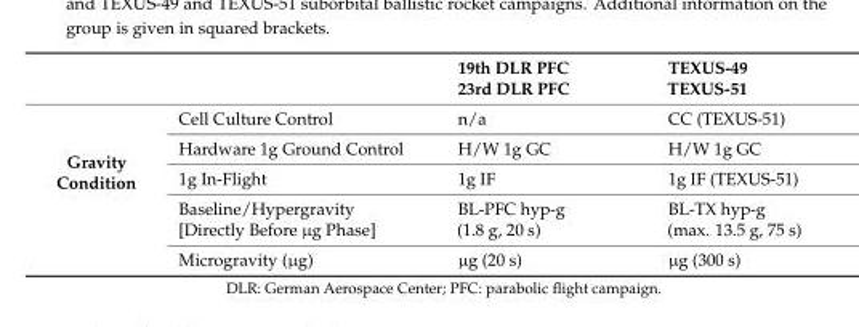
<table><thead><tr><td></td><td></td><td>19th DLR PFC 23rd DLR PFC</td><td>TEXUS-49 TEXUS-51</td></tr></thead><tbody><tr><td rowspan="5">Gravity Condition</td><td>Cell Culture Control</td><td>n/a</td><td>CC (TEXUS-51)</td></tr><tr><td>Hardware 1g Ground Control</td><td>H/W 1g GC</td><td>H/W 1g GC</td></tr><tr><td>1g In-Flight</td><td>1g IF</td><td>1g IF (TEXUS-51)</td></tr><tr><td>Baseline/Hypergravity [Directly Before µg Phase]</td><td>BL-PFC hyp-g (1.8 g, 20 s)</td><td>BL-TX hyp-g (max. 13.5 g, 75 s)</td></tr><tr><td>Microgravity (µg)</td><td>µg (20 s)</td><td>µg (300 s)</td></tr></tbody></table>